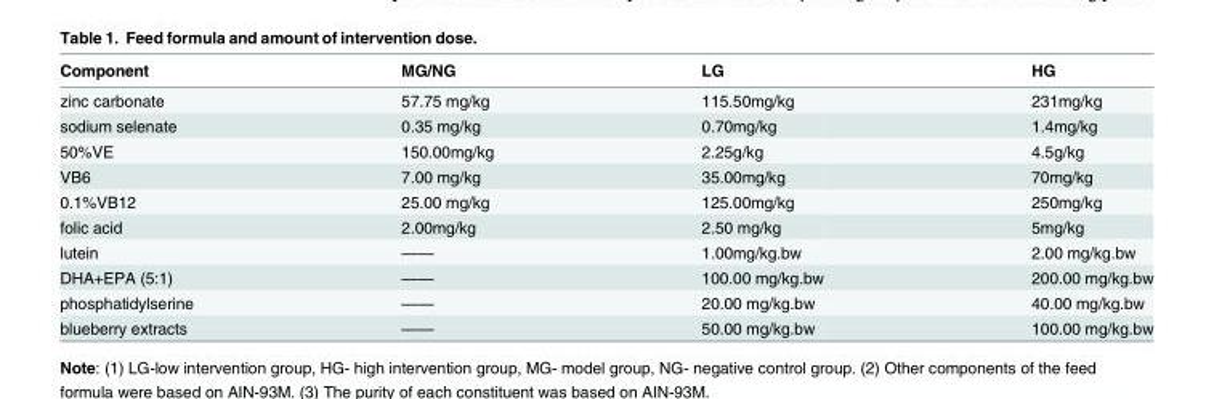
<table><thead><tr><td>Component</td><td>MG/NG</td><td>LG</td><td>HG</td></tr></thead><tbody><tr><td>zinc carbonate</td><td>57.75 mg/kg</td><td>115.50mg/kg</td><td>231mg/kg</td></tr><tr><td>sodium selenate</td><td>0.35 mg/kg</td><td>0.70mg/kg</td><td>1.4mg/kg</td></tr><tr><td>50%VE</td><td>150.00mg/kg</td><td>2.25g/kg</td><td>4.5g/kg</td></tr><tr><td>VB6</td><td>7.00 mg/kg</td><td>35.00mg/kg</td><td>70mg/kg</td></tr><tr><td>0.1%VB12</td><td>25.00 mg/kg</td><td>125.00mg/kg</td><td>250mg/kg</td></tr><tr><td>folic acid</td><td>2.00mg/kg</td><td>2.50 mg/kg</td><td>5mg/kg</td></tr><tr><td>lutein</td><td>——</td><td>1.00mg/kg.bw</td><td>2.00 mg/kg.bw</td></tr><tr><td>DHA+EPA (5:1)</td><td>——</td><td>100.00 mg/kg.bw</td><td>200.00 mg/kg.bw</td></tr><tr><td>phosphatidylserine</td><td>——</td><td>20.00 mg/kg.bw</td><td>40.00 mg/kg.bw</td></tr><tr><td>blueberry extracts</td><td>——</td><td>50.00 mg/kg.bw</td><td>100.00 mg/kg.bw</td></tr></tbody></table>